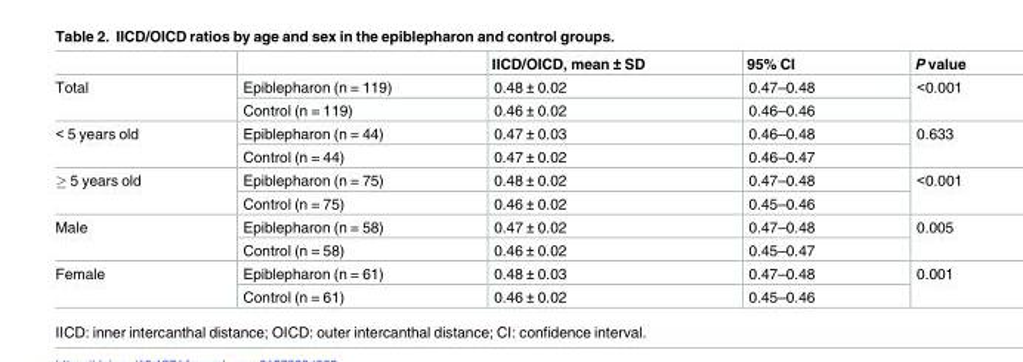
<table><thead><tr><td></td><td></td><td>IICD/OICD, mean ± SD</td><td>95% CI</td><td>P value</td></tr></thead><tbody><tr><td rowspan="2">Total</td><td>Epiblepharon (n = 119)</td><td>0.48 ± 0.02</td><td>0.47–0.48</td><td rowspan="2">&lt;0.001</td></tr><tr><td>Control (n = 119)</td><td>0.46 ± 0.02</td><td>0.46–0.46</td></tr><tr><td rowspan="2">&lt; 5 years old</td><td>Epiblepharon (n = 44)</td><td>0.47 ± 0.03</td><td>0.46–0.48</td><td rowspan="2">0.633</td></tr><tr><td>Control (n = 44)</td><td>0.47 ± 0.02</td><td>0.46–0.47</td></tr><tr><td rowspan="2">≥ 5 years old</td><td>Epiblepharon (n = 75)</td><td>0.48 ± 0.02</td><td>0.47–0.48</td><td rowspan="2">&lt;0.001</td></tr><tr><td>Control (n = 75)</td><td>0.46 ± 0.02</td><td>0.45–0.46</td></tr><tr><td rowspan="2">Male</td><td>Epiblepharon (n = 58)</td><td>0.47 ± 0.02</td><td>0.47–0.48</td><td rowspan="2">0.005</td></tr><tr><td>Control (n = 58)</td><td>0.46 ± 0.02</td><td>0.45–0.47</td></tr><tr><td rowspan="2">Female</td><td>Epiblepharon (n = 61)</td><td>0.48 ± 0.03</td><td>0.47–0.48</td><td rowspan="2">0.001</td></tr><tr><td>Control (n = 61)</td><td>0.46 ± 0.02</td><td>0.45–0.46</td></tr></tbody></table>